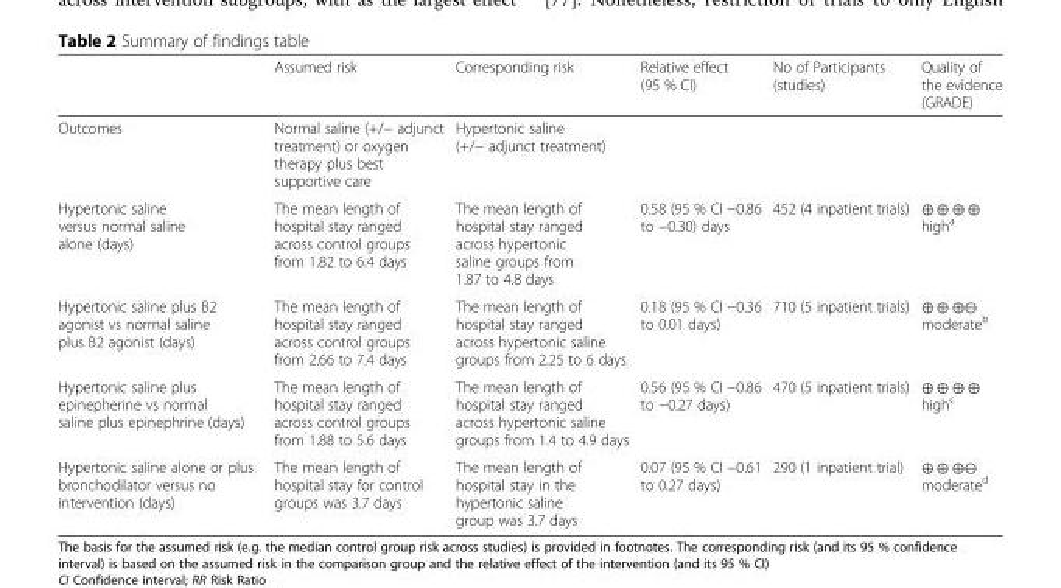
<table><thead><tr><td></td><td>Assumed risk</td><td>Corresponding risk</td><td>Relative effect (95 % CI)</td><td>No of Participants (studies)</td><td>Quality of the evidence (GRADE)</td></tr></thead><tbody><tr><td>Outcomes</td><td>Normal saline (+/− adjunct treatment) or oxygen therapy plus best supportive care</td><td>Hypertonic saline (+/− adjunct treatment)</td><td></td><td></td><td></td></tr><tr><td>Hypertonic saline versus normal saline alone (days)</td><td>The mean length of hospital stay ranged across control groups from 1.82 to 6.4 days</td><td>The mean length of hospital stay ranged across hypertonic saline groups from 1.87 to 4.8 days</td><td>0.58 (95 % CI −0.86 to −0.30) days</td><td>452 (4 inpatient trials)</td><td>⊕ ⊕ ⊕ ⊕ high<sup>a</sup></td></tr><tr><td>Hypertonic saline plus B2 agonist vs normal saline plus B2 agonist (days)</td><td>The mean length of hospital stay ranged across control groups from 2.66 to 7.4 days</td><td>The mean length of hospital stay ranged across hypertonic saline groups from 2.25 to 6 days</td><td>0.18 (95 % CI −0.36 to 0.01 days)</td><td>710 (5 inpatient trials)</td><td>⊕ ⊕ ⊕⊖ moderate<sup>b</sup></td></tr><tr><td>Hypertonic saline plus epinepherine vs normal saline plus epinephrine (days)</td><td>The mean length of hospital stay ranged across control groups from 1.88 to 5.6 days</td><td>The mean length of hospital stay ranged across hypertonic saline groups from 1.4 to 4.9 days</td><td>0.56 (95 % CI −0.86 to −0.27 days)</td><td>470 (5 inpatient trials)</td><td>⊕ ⊕ ⊕ ⊕ high<sup>c</sup></td></tr><tr><td>Hypertonic saline alone or plus bronchodilator versus no intervention (days)</td><td>The mean length of hospital stay for control groups was 3.7 days</td><td>The mean length of hospital stay in the hypertonic saline group was 3.7 days</td><td>0.07 (95 % CI −0.61 to 0.27 days)</td><td>290 (1 inpatient trial)</td><td>⊕ ⊕ ⊕⊖ moderate<sup>d</sup></td></tr></tbody></table>